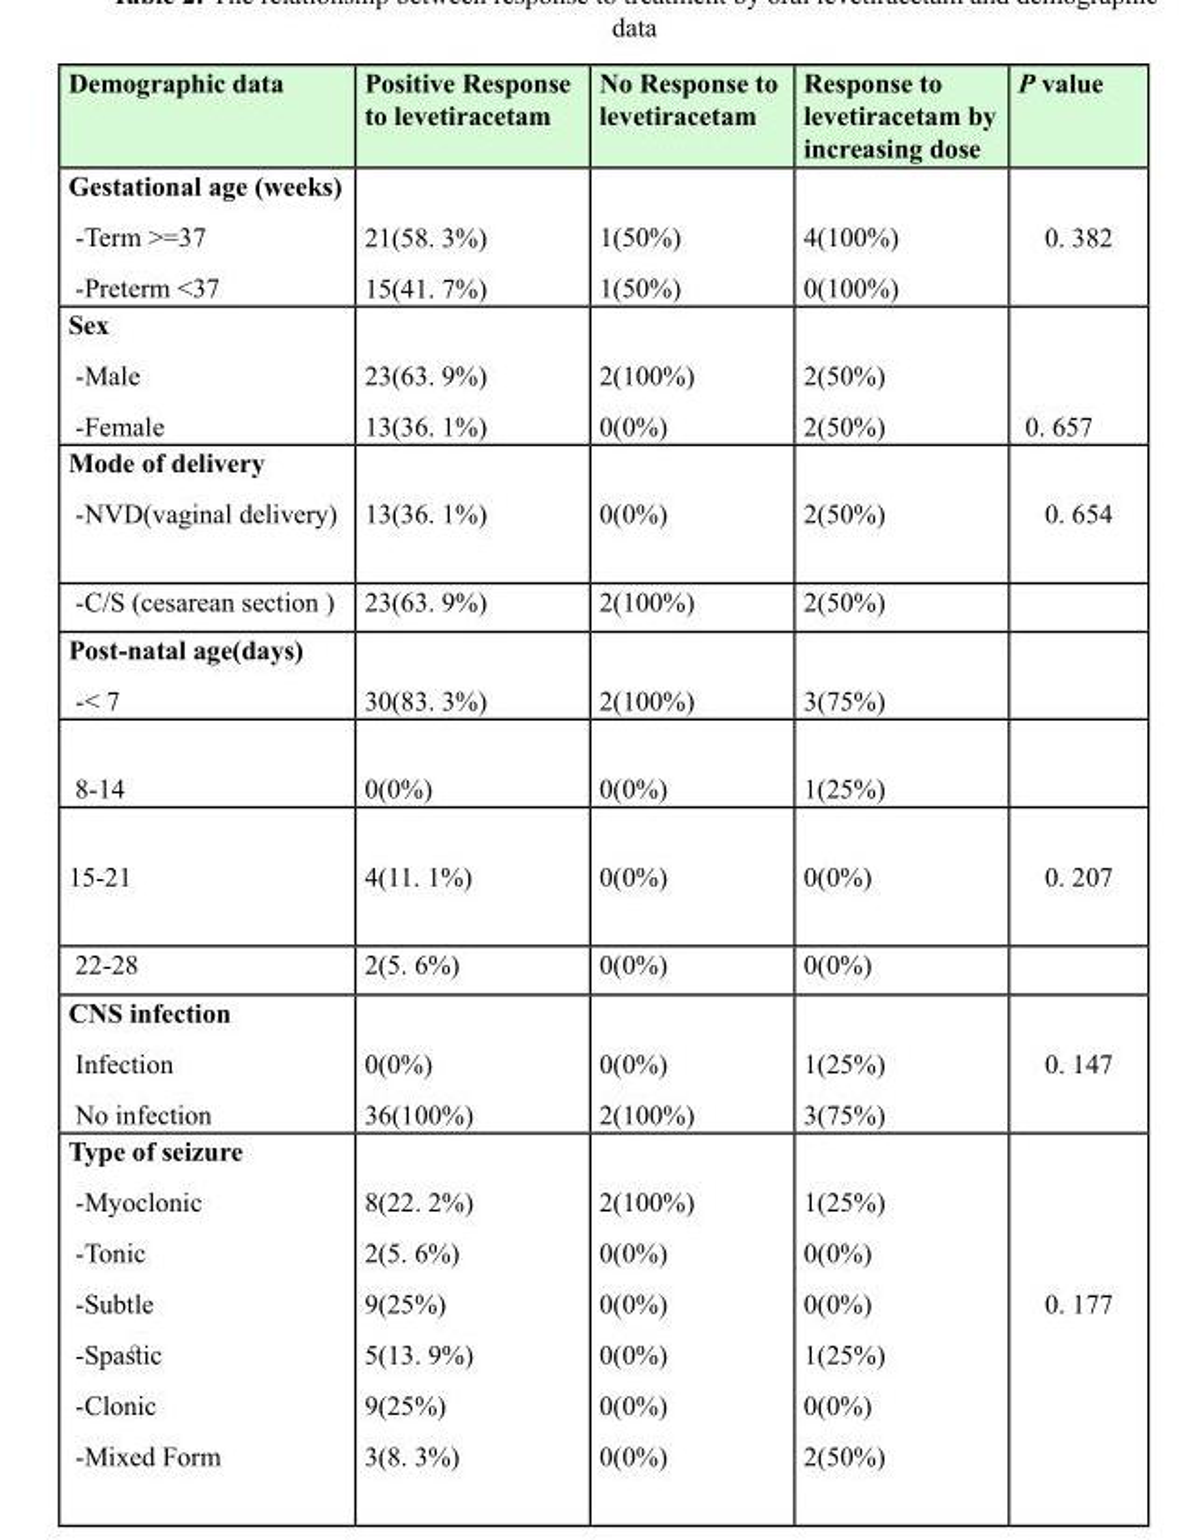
<table><tbody><tr><td>Demographic data</td><td>Positive Response to levetiracetam</td><td>No Response to levetiracetam</td><td>Response to levetiracetam by increasing dose</td><td>P value</td></tr><tr><td colspan="5">Gestational age (weeks)</td></tr><tr><td>-Term &gt;=37 -Preterm &lt;37</td><td>21(58. 3%) 15(41. 7%)</td><td>1(50%) 1(50%)</td><td>4(100%) 0(100%)</td><td>0. 382</td></tr><tr><td colspan="5">Sex</td></tr><tr><td>-Male -Female</td><td>23(63. 9%) 13(36. 1%)</td><td>2(100%) 0(0%)</td><td>2(50%) 2(50%)</td><td>0. 657</td></tr><tr><td colspan="5">Mode of delivery</td></tr><tr><td>-NVD(vaginal delivery)</td><td>13(36. 1%)</td><td>0(0%)</td><td>2(50%)</td><td>0. 654</td></tr><tr><td>-C/S (cesarean section )</td><td>23(63. 9%)</td><td>2(100%)</td><td>2(50%)</td><td></td></tr><tr><td>Post-natal age(days) -&lt; 7</td><td>30(83. 3%)</td><td>2(100%)</td><td>3(75%)</td><td></td></tr><tr><td>8-14</td><td>0(0%)</td><td>0(0%)</td><td>1(25%)</td><td></td></tr><tr><td>15-21</td><td>4(11. 1%)</td><td>0(0%)</td><td>0(0%)</td><td>0. 207</td></tr><tr><td>22-28</td><td>2(5. 6%)</td><td>0(0%)</td><td>0(0%)</td><td></td></tr><tr><td colspan="5">CNS infection</td></tr><tr><td>Infection No infection</td><td>0(0%) 36(100%)</td><td>0(0%) 2(100%)</td><td>1(25%) 3(75%)</td><td>0. 147</td></tr><tr><td colspan="5">Type of seizure</td></tr><tr><td>-Myoclonic -Tonic -Subtle -Spastic -Clonic -Mixed Form</td><td>8(22. 2%) 2(5. 6%) 9(25%) 5(13. 9%) 9(25%) 3(8. 3%)</td><td>2(100%) 0(0%) 0(0%) 0(0%) 0(0%) 0(0%)</td><td>1(25%) 0(0%) 0(0%) 1(25%) 0(0%) 2(50%)</td><td>0. 177</td></tr></tbody></table>